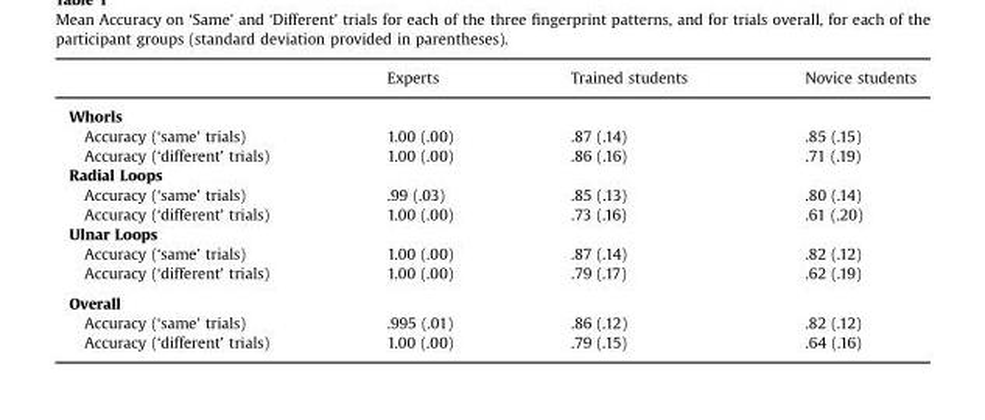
<table><thead><tr><td></td><td>Experts</td><td>Trained students</td><td>Novice students</td></tr></thead><tbody><tr><td colspan="4">Whorls</td></tr><tr><td>Accuracy (‘same’ trials)</td><td>1.00 (.00)</td><td>.87 (.14)</td><td>.85 (.15)</td></tr><tr><td>Accuracy (‘different’ trials)</td><td>1.00 (.00)</td><td>.86 (.16)</td><td>.71 (.19)</td></tr><tr><td colspan="4">Radial Loops</td></tr><tr><td>Accuracy (‘same’ trials)</td><td>.99 (.03)</td><td>.85 (.13)</td><td>.80 (.14)</td></tr><tr><td>Accuracy (‘different’ trials)</td><td>1.00 (.00)</td><td>.73 (.16)</td><td>.61 (.20)</td></tr><tr><td colspan="4">Ulnar Loops</td></tr><tr><td>Accuracy (‘same’ trials)</td><td>1.00 (.00)</td><td>.87 (.14)</td><td>.82 (.12)</td></tr><tr><td>Accuracy (‘different’ trials)</td><td>1.00 (.00)</td><td>.79 (.17)</td><td>.62 (.19)</td></tr><tr><td colspan="4">Overall</td></tr><tr><td>Accuracy (‘same’ trials)</td><td>.995 (.01)</td><td>.86 (.12)</td><td>.82 (.12)</td></tr><tr><td>Accuracy (‘different’ trials)</td><td>1.00 (.00)</td><td>.79 (.15)</td><td>.64 (.16)</td></tr></tbody></table>